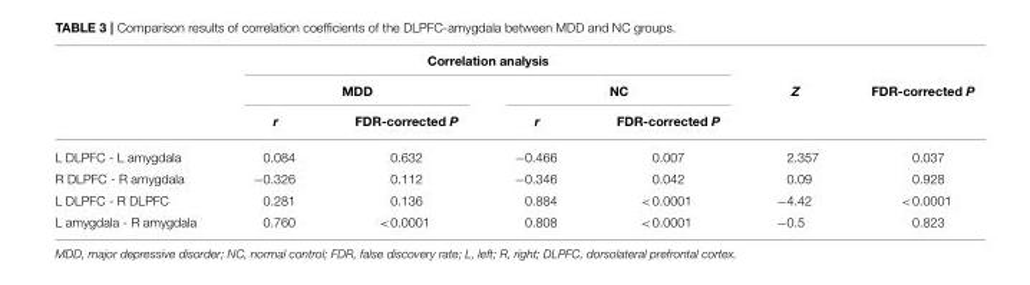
<table><thead><tr><td rowspan="3"></td><td colspan="4">Correlation analysis</td><td rowspan="3">Z</td><td rowspan="3">FDR-corrected P</td></tr><tr><td colspan="2">MDD</td><td colspan="2">NC</td></tr><tr><td>r</td><td>FDR-corrected P</td><td>r</td><td>FDR-corrected P</td></tr></thead><tbody><tr><td>L DLPFC - L amygdala</td><td>0.084</td><td>0.632</td><td>−0.466</td><td>0.007</td><td>2.357</td><td>0.037</td></tr><tr><td>R DLPFC - R amygdala</td><td>−0.326</td><td>0.112</td><td>−0.346</td><td>0.042</td><td>0.09</td><td>0.928</td></tr><tr><td>L DLPFC - R DLPFC</td><td>0.281</td><td>0.136</td><td>0.884</td><td>&lt;0.0001</td><td>−4.42</td><td>&lt;0.0001</td></tr><tr><td>L amygdala - R amygdala</td><td>0.760</td><td>&lt;0.0001</td><td>0.808</td><td>&lt;0.0001</td><td>−0.5</td><td>0.823</td></tr></tbody></table>